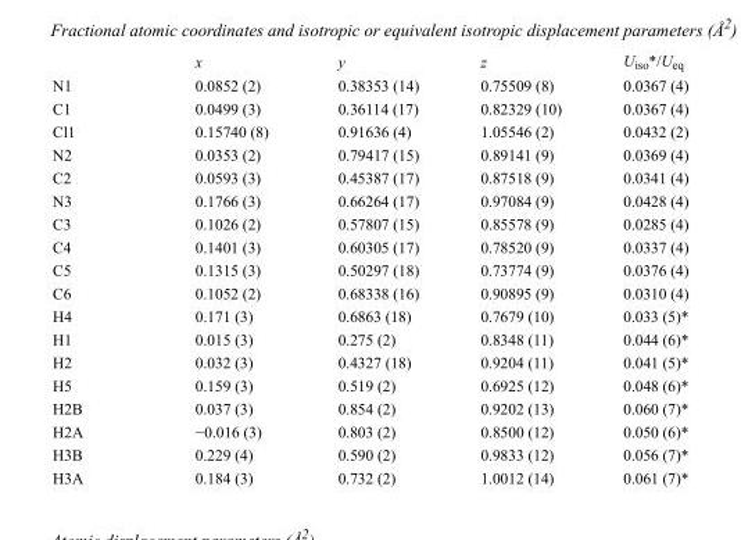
<table><thead><tr><td></td><td>x</td><td>y</td><td>z</td><td>U<sub>iso</sub>*/U<sub>eq</sub></td></tr></thead><tbody><tr><td>N1</td><td>0.0852 (2)</td><td>0.38353 (14)</td><td>0.75509 (8)</td><td>0.0367 (4)</td></tr><tr><td>C1</td><td>0.0499 (3)</td><td>0.36114 (17)</td><td>0.82329 (10)</td><td>0.0367 (4)</td></tr><tr><td>Cl1</td><td>0.15740 (8)</td><td>0.91636 (4)</td><td>1.05546 (2)</td><td>0.0432 (2)</td></tr><tr><td>N2</td><td>0.0353 (2)</td><td>0.79417 (15)</td><td>0.89141 (9)</td><td>0.0369 (4)</td></tr><tr><td>C2</td><td>0.0593 (3)</td><td>0.45387 (17)</td><td>0.87518 (9)</td><td>0.0341 (4)</td></tr><tr><td>N3</td><td>0.1766 (3)</td><td>0.66264 (17)</td><td>0.97084 (9)</td><td>0.0428 (4)</td></tr><tr><td>C3</td><td>0.1026 (2)</td><td>0.57807 (15)</td><td>0.85578 (9)</td><td>0.0285 (4)</td></tr><tr><td>C4</td><td>0.1401 (3)</td><td>0.60305 (17)</td><td>0.78520 (9)</td><td>0.0337 (4)</td></tr><tr><td>C5</td><td>0.1315 (3)</td><td>0.50297 (18)</td><td>0.73774 (9)</td><td>0.0376 (4)</td></tr><tr><td>C6</td><td>0.1052 (2)</td><td>0.68338 (16)</td><td>0.90895 (9)</td><td>0.0310 (4)</td></tr><tr><td>H4</td><td>0.171 (3)</td><td>0.6863 (18)</td><td>0.7679 (10)</td><td>0.033 (5)*</td></tr><tr><td>H1</td><td>0.015 (3)</td><td>0.275 (2)</td><td>0.8348 (11)</td><td>0.044 (6)*</td></tr><tr><td>H2</td><td>0.032 (3)</td><td>0.4327 (18)</td><td>0.9204 (11)</td><td>0.041 (5)*</td></tr><tr><td>H5</td><td>0.159 (3)</td><td>0.519 (2)</td><td>0.6925 (12)</td><td>0.048 (6)*</td></tr><tr><td>H2B</td><td>0.037 (3)</td><td>0.854 (2)</td><td>0.9202 (13)</td><td>0.060 (7)*</td></tr><tr><td>H2A</td><td>−0.016 (3)</td><td>0.803 (2)</td><td>0.8500 (12)</td><td>0.050 (6)*</td></tr><tr><td>H3B</td><td>0.229 (4)</td><td>0.590 (2)</td><td>0.9833 (12)</td><td>0.056 (7)*</td></tr><tr><td>H3A</td><td>0.184 (3)</td><td>0.732 (2)</td><td>1.0012 (14)</td><td>0.061 (7)*</td></tr></tbody></table>